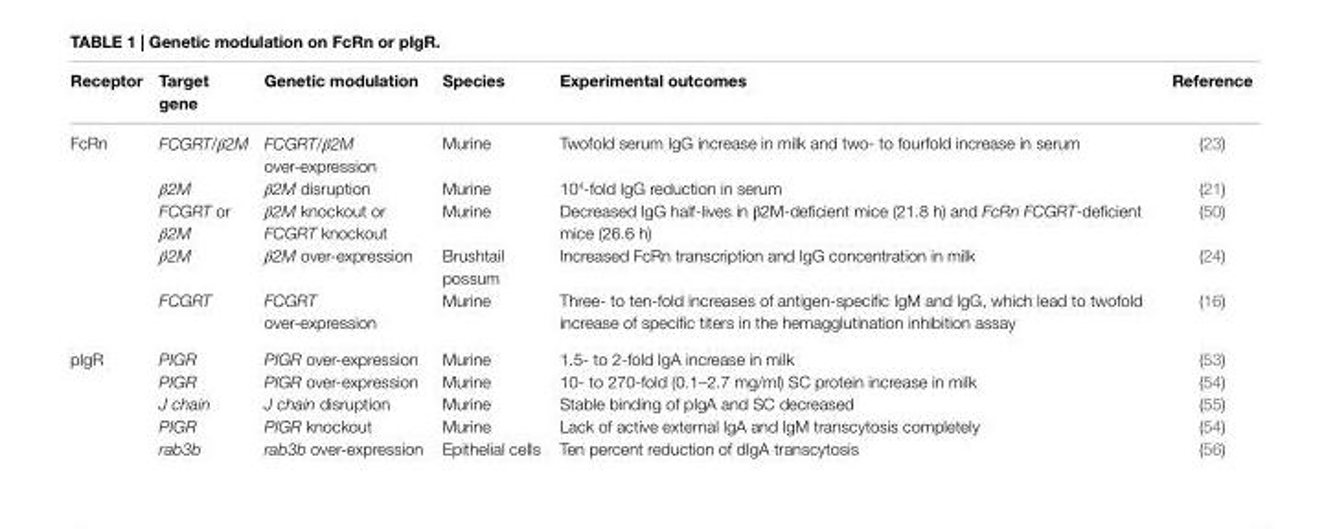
<table><thead><tr><td>Receptor</td><td>Target gene</td><td>Genetic modulation</td><td>Species</td><td>experimental outcomes</td><td>Reference</td></tr></thead><tbody><tr><td rowspan="5">FcRn</td><td>FCGRT/β2M</td><td>FCGRT/β2M over-expression</td><td>Murine</td><td>Twofold serum IgG increase in milk and two- to fourfold increase in serum</td><td>(23)</td></tr><tr><td>β2M</td><td>β2M disruption</td><td>Murine</td><td>10<sup>4</sup>-fold IgG reduction in serum</td><td>(21)</td></tr><tr><td>FCGRT or β2M</td><td>β2M knockout or FCGRT knockout</td><td>Murine</td><td>Decreased IgG half-lives in β2M-deficient mice (21.8 h) and FcRn FCGRT-deficient mice (26.6 h)</td><td>(50)</td></tr><tr><td>β2M</td><td>β2M over-expression</td><td>Brushtail possum</td><td>Increased FcRn transcription and IgG concentration in milk</td><td>(24)</td></tr><tr><td>FCGRT</td><td>FCGRT over-expression</td><td>Murine</td><td>Three- to ten-fold increases of antigen-specific IgM and IgG, which lead to twofold increase of specific titers in the hemagglutination inhibition assay</td><td>(16)</td></tr><tr><td rowspan="5">pIgR</td><td>PIGR</td><td>PIGR over-expression</td><td>Murine</td><td>1.5- to 2-fold IgA increase in milk</td><td>(53)</td></tr><tr><td>PIGR</td><td>PIGR over-expression</td><td>Murine</td><td>10- to 270-fold (0.1–2.7 mg/ml) SC protein increase in milk</td><td>(54)</td></tr><tr><td>J chain</td><td>J chain disruption</td><td>Murine</td><td>Stable binding of pIgA and SC decreased</td><td>(55)</td></tr><tr><td>PIGR</td><td>PIGR knockout</td><td>Murine</td><td>Lack of active external IgA and IgM transcytosis completely</td><td>(54)</td></tr><tr><td>rab3b</td><td>rab3b over-expression</td><td>Epithelial cells</td><td>Ten percent reduction of dIgA transcytosis</td><td>(56)</td></tr></tbody></table>